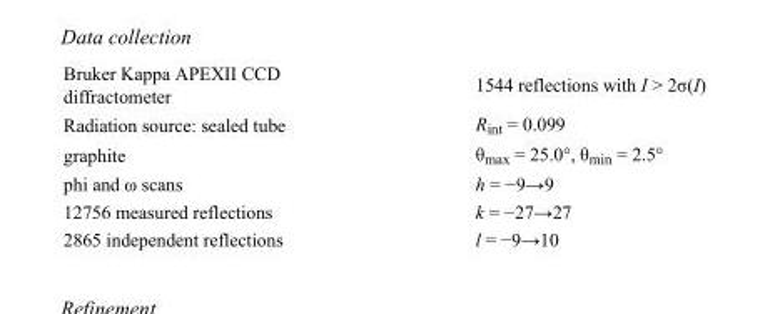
<table><tbody><tr><td>Bruker Kappa APEXII CCD diffractometer</td><td>1544 reflections with I &gt; 2σ(I)</td></tr><tr><td>Radiation source: sealed tube</td><td>R<sub>int</sub> = 0.099</td></tr><tr><td>graphite</td><td>θ<sub>max</sub> = 25.0°, θ<sub>min</sub> = 2.5°</td></tr><tr><td>phi and ω scans</td><td>h = −9→9</td></tr><tr><td>12756 measured reflections</td><td>k = −27→27</td></tr><tr><td>2865 independent reflections</td><td>l = −9→10</td></tr></tbody></table>